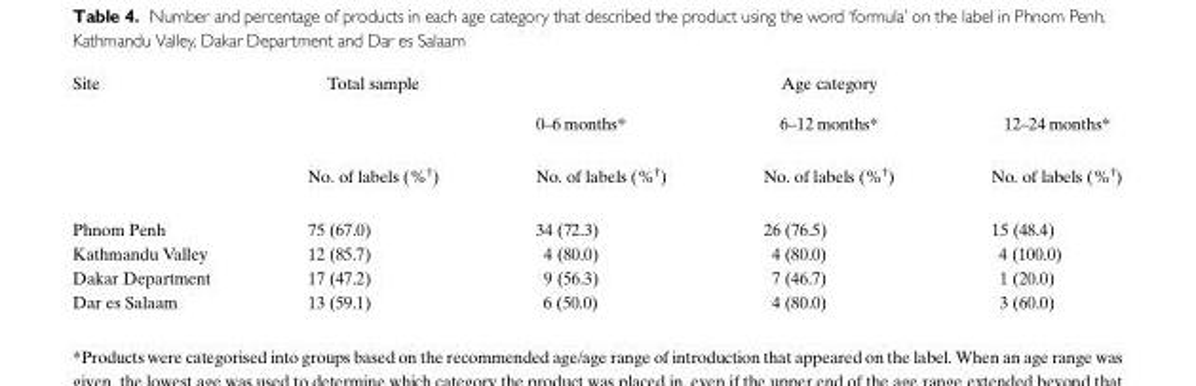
<table><thead><tr><td rowspan="3">Site</td><td rowspan="3">Total sample No. of labels (%†)</td><td colspan="3">Age category</td></tr><tr><td rowspan="2">0–6 months* No. of labels (%†)</td><td rowspan="2">6–12 months* No. of labels (%†)</td><td rowspan="2">12–24 months* No. of labels (%†)</td></tr><tr></tr></thead><tbody><tr><td>Phnom Penh</td><td>75 (67.0)</td><td>34 (72.3)</td><td>26 (76.5)</td><td>15 (48.4)</td></tr><tr><td>Kathmandu Valley</td><td>12 (85.7)</td><td>4 (80.0)</td><td>4 (80.0)</td><td>4 (100.0)</td></tr><tr><td>Dakar Department</td><td>17 (47.2)</td><td>9 (56.3)</td><td>7 (46.7)</td><td>1 (20.0)</td></tr><tr><td>Dar es Salaam</td><td>13 (59.1)</td><td>6 (50.0)</td><td>4 (80.0)</td><td>3 (60.0)</td></tr></tbody></table>